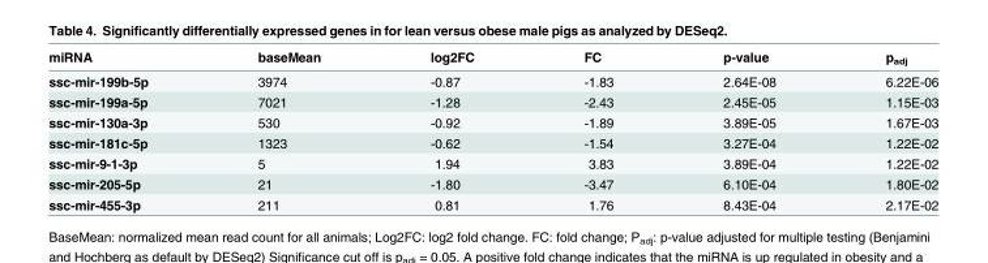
<table><thead><tr><td>miRNA</td><td>baseMean</td><td>log2FC</td><td>FC</td><td>p-value</td><td>p<sub>adj</sub></td></tr></thead><tbody><tr><td>ssc-mir-199b-5p</td><td>3974</td><td>-0.87</td><td>-1.83</td><td>2.64E-08</td><td>6.22E-06</td></tr><tr><td>ssc-mir-199a-5p</td><td>7021</td><td>-1.28</td><td>-2.43</td><td>2.45E-05</td><td>1.15E-03</td></tr><tr><td>ssc-mir-130a-3p</td><td>530</td><td>-0.92</td><td>-1.89</td><td>3.89E-05</td><td>1.67E-03</td></tr><tr><td>ssc-mir-181c-5p</td><td>1323</td><td>-0.62</td><td>-1.54</td><td>3.27E-04</td><td>1.22E-02</td></tr><tr><td>ssc-mir-9-1-3p</td><td>5</td><td>1.94</td><td>3.83</td><td>3.89E-04</td><td>1.22E-02</td></tr><tr><td>ssc-mir-205-5p</td><td>21</td><td>-1.80</td><td>-3.47</td><td>6.10E-04</td><td>1.80E-02</td></tr><tr><td>ssc-mir-455-3p</td><td>211</td><td>0.81</td><td>1.76</td><td>8.43E-04</td><td>2.17E-02</td></tr></tbody></table>